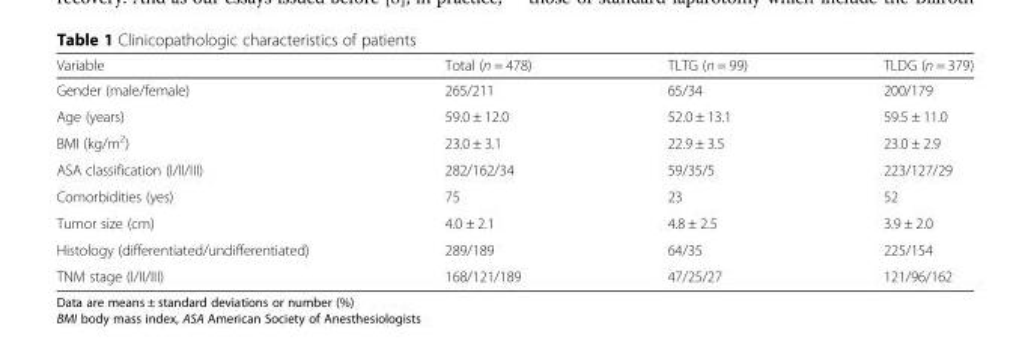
<table><thead><tr><td>Variable</td><td>Total (n = 478)</td><td>TLTG (n = 99)</td><td>TLDG (n = 379)</td></tr></thead><tbody><tr><td>Gender (male/female)</td><td>265/211</td><td>65/34</td><td>200/179</td></tr><tr><td>Age (years)</td><td>59.0 ± 12.0</td><td>52.0 ± 13.1</td><td>59.5 ± 11.0</td></tr><tr><td>BMI (kg/m<sup>2</sup>)</td><td>23.0 ± 3.1</td><td>22.9 ± 3.5</td><td>23.0 ± 2.9</td></tr><tr><td>ASA classification (I/II/III)</td><td>282/162/34</td><td>59/35/5</td><td>223/127/29</td></tr><tr><td>Comorbidities (yes)</td><td>75</td><td>23</td><td>52</td></tr><tr><td>Tumor size (cm)</td><td>4.0 ± 2.1</td><td>4.8 ± 2.5</td><td>3.9 ± 2.0</td></tr><tr><td>Histology (differentiated/undifferentiated)</td><td>289/189</td><td>64/35</td><td>225/154</td></tr><tr><td>TNM stage (I/II/III)</td><td>168/121/189</td><td>47/25/27</td><td>121/96/162</td></tr></tbody></table>